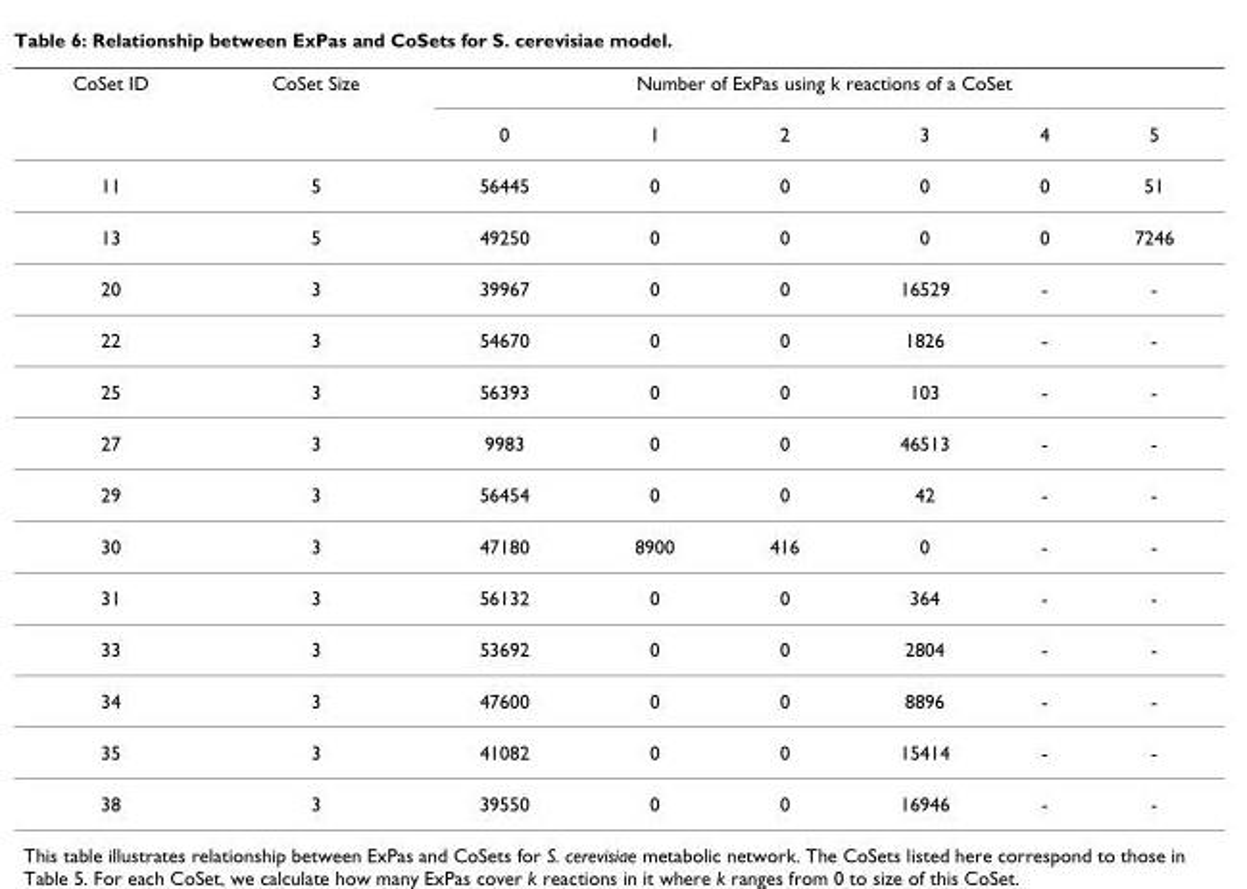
<table><thead><tr><td rowspan="2">CoSet ID</td><td rowspan="2">CoSet Size</td><td colspan="6">Number of ExPas using k reactions of a CoSet</td></tr><tr><td>0</td><td>1</td><td>2</td><td>3</td><td>4</td><td>5</td></tr></thead><tbody><tr><td>11</td><td>5</td><td>56445</td><td>0</td><td>0</td><td>0</td><td>0</td><td>51</td></tr><tr><td>13</td><td>5</td><td>49250</td><td>0</td><td>0</td><td>0</td><td>0</td><td>7246</td></tr><tr><td>20</td><td>3</td><td>39967</td><td>0</td><td>0</td><td>16529</td><td>-</td><td>-</td></tr><tr><td>22</td><td>3</td><td>54670</td><td>0</td><td>0</td><td>1826</td><td>-</td><td>-</td></tr><tr><td>25</td><td>3</td><td>56393</td><td>0</td><td>0</td><td>103</td><td>-</td><td>-</td></tr><tr><td>27</td><td>3</td><td>9983</td><td>0</td><td>0</td><td>46513</td><td>-</td><td>-</td></tr><tr><td>29</td><td>3</td><td>56454</td><td>0</td><td>0</td><td>42</td><td>-</td><td>-</td></tr><tr><td>30</td><td>3</td><td>47180</td><td>8900</td><td>416</td><td>0</td><td>-</td><td>-</td></tr><tr><td>31</td><td>3</td><td>56132</td><td>0</td><td>0</td><td>364</td><td>-</td><td>-</td></tr><tr><td>33</td><td>3</td><td>53692</td><td>0</td><td>0</td><td>2804</td><td>-</td><td>-</td></tr><tr><td>34</td><td>3</td><td>47600</td><td>0</td><td>0</td><td>8896</td><td>-</td><td>-</td></tr><tr><td>35</td><td>3</td><td>41082</td><td>0</td><td>0</td><td>15414</td><td>-</td><td>-</td></tr><tr><td>38</td><td>3</td><td>39550</td><td>0</td><td>0</td><td>16946</td><td>-</td><td>-</td></tr></tbody></table>